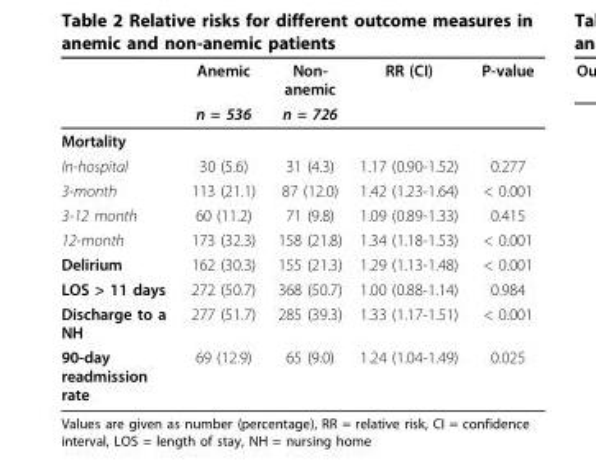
<table><thead><tr><td rowspan="2"></td><td rowspan="2">Anemic n = 536</td><td rowspan="2">Non- anemic n = 726</td><td rowspan="2">RR (CI)</td><td rowspan="2">P-value</td></tr><tr></tr></thead><tbody><tr><td colspan="5">Mortality</td></tr><tr><td>In-hospital</td><td>30 (5.6)</td><td>31 (4.3)</td><td>1.17 (0.90-1.52)</td><td>0.277</td></tr><tr><td>3-month</td><td>113 (21.1)</td><td>87 (12.0)</td><td>1.42 (1.23-1.64)</td><td>&lt; 0.001</td></tr><tr><td>3-12 month</td><td>60 (11.2)</td><td>71 (9.8)</td><td>1.09 (0.89-1.33)</td><td>0.415</td></tr><tr><td>12-month</td><td>173 (32.3)</td><td>158 (21.8)</td><td>1.34 (1.18-1.53)</td><td>&lt; 0.001</td></tr><tr><td>Delirium</td><td>162 (30.3)</td><td>155 (21.3)</td><td>1.29 (1.13-1.48)</td><td>&lt; 0.001</td></tr><tr><td>LOS &gt; 11 days</td><td>272 (50.7)</td><td>368 (50.7)</td><td>1.00 (0.88-1.14)</td><td>0.984</td></tr><tr><td>Discharge to a NH</td><td>277 (51.7)</td><td>285 (39.3)</td><td>1.33 (1.17-1.51)</td><td>&lt; 0.001</td></tr><tr><td>90-day readmission rate</td><td>69 (12.9)</td><td>65 (9.0)</td><td>1.24 (1.04-1.49)</td><td>0.025</td></tr></tbody></table>